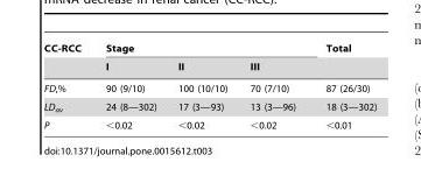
<table><thead><tr><td rowspan="2">CC-RCC</td><td colspan="3">Stage</td><td rowspan="2">Total</td></tr><tr><td>I</td><td>II</td><td>III</td></tr></thead><tbody><tr><td>FD,%</td><td>90 (9/10)</td><td>100 (10/10)</td><td>70 (7/10)</td><td>87 (26/30)</td></tr><tr><td>LD<sub>av</sub></td><td>24 (8—302)</td><td>17 (3—93)</td><td>13 (3—96)</td><td>18 (3—302)</td></tr><tr><td>P</td><td>&lt;0.02</td><td>&lt;0.02</td><td>&lt;0.02</td><td>&lt;0.01</td></tr></tbody></table>